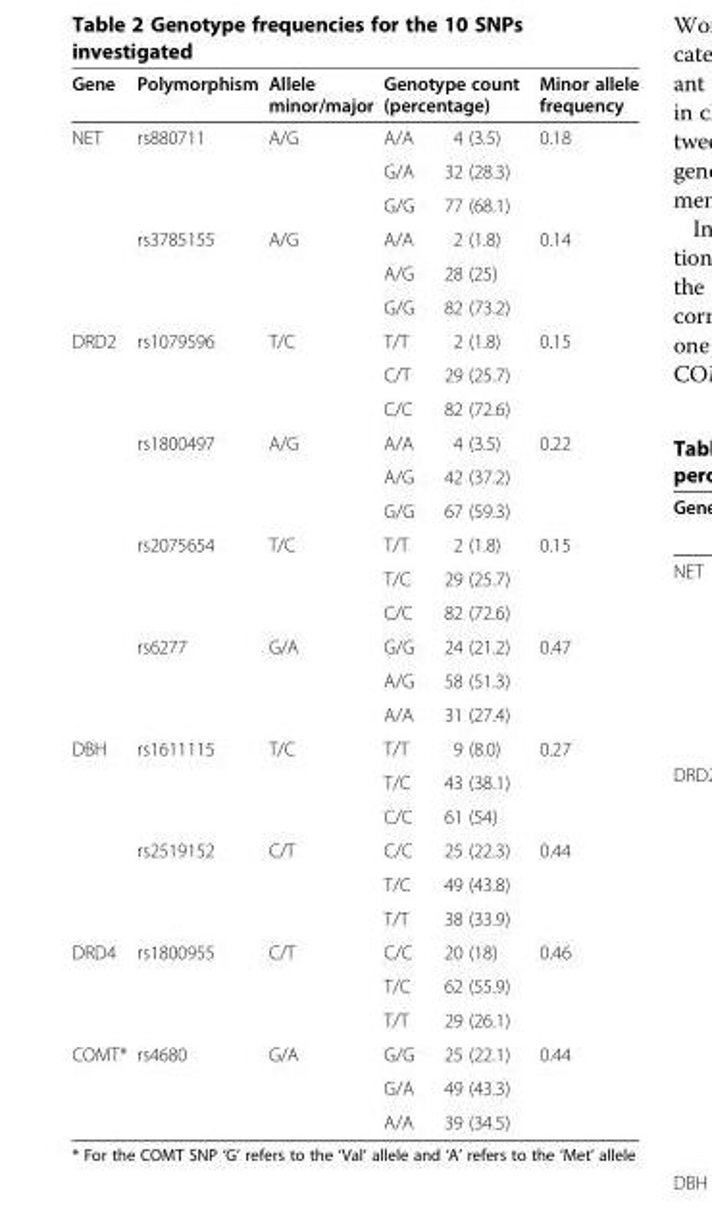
<table><thead><tr><td rowspan="2">Gene NET</td><td rowspan="2">Polymorphism rs880711</td><td rowspan="2">Allele minor/major A/G</td><td colspan="2">Genotype count (percentage)</td><td rowspan="2">Minor allele frequency 0.18</td></tr><tr><td>A/A</td><td>4 (3.5)</td></tr></thead><tbody><tr><td></td><td></td><td></td><td>G/A</td><td>32 (28.3)</td><td></td></tr><tr><td></td><td></td><td></td><td>G/G</td><td>77 (68.1)</td><td></td></tr><tr><td></td><td>rs3785155</td><td>A/G</td><td>A/A</td><td>2 (1.8)</td><td>0.14</td></tr><tr><td></td><td></td><td></td><td>A/G</td><td>28 (25)</td><td></td></tr><tr><td></td><td></td><td></td><td>G/G</td><td>82 (73.2)</td><td></td></tr><tr><td rowspan="12">DRD2</td><td>rs1079596</td><td>T/C</td><td>T/T</td><td>2 (1.8)</td><td>0.15</td></tr><tr><td></td><td></td><td>C/T</td><td>29 (25.7)</td><td></td></tr><tr><td></td><td></td><td>C/C</td><td>82 (72.6)</td><td></td></tr><tr><td>rs1800497</td><td>A/G</td><td>A/A</td><td>4 (3.5)</td><td>0.22</td></tr><tr><td></td><td></td><td>A/G</td><td>42 (37.2)</td><td></td></tr><tr><td></td><td></td><td>G/G</td><td>67 (59.3)</td><td></td></tr><tr><td>rs2075654</td><td>T/C</td><td>T/T</td><td>2 (1.8)</td><td>0.15</td></tr><tr><td></td><td></td><td>T/C</td><td>29 (25.7)</td><td></td></tr><tr><td></td><td></td><td>C/C</td><td>82 (72.6)</td><td></td></tr><tr><td>rs6277</td><td>G/A</td><td>G/G</td><td>24 (21.2)</td><td>0.47</td></tr><tr><td></td><td></td><td>A/G</td><td>58 (51.3)</td><td></td></tr><tr><td></td><td></td><td>A/A</td><td>31 (27.4)</td><td></td></tr><tr><td rowspan="6">DBH</td><td>rs1611115</td><td>T/C</td><td>T/T</td><td>9 (8.0)</td><td>0.27</td></tr><tr><td></td><td></td><td>T/C</td><td>43 (38.1)</td><td></td></tr><tr><td></td><td></td><td>C/C</td><td>61 (54)</td><td></td></tr><tr><td>rs2519152</td><td>C/T</td><td>C/C</td><td>25 (22.3)</td><td>0.44</td></tr><tr><td></td><td></td><td>T/C</td><td>49 (43.8)</td><td></td></tr><tr><td></td><td></td><td>T/T</td><td>38 (33.9)</td><td></td></tr><tr><td rowspan="3">DRD4</td><td>rs1800955</td><td>C/T</td><td>C/C</td><td>20 (18)</td><td>0.46</td></tr><tr><td></td><td></td><td>T/C</td><td>62 (55.9)</td><td></td></tr><tr><td></td><td></td><td>T/T</td><td>29 (26.1)</td><td></td></tr><tr><td rowspan="3">COMT*</td><td>rs4680</td><td>G/A</td><td>G/G</td><td>25 (22.1)</td><td>0.44</td></tr><tr><td></td><td></td><td>G/A</td><td>49 (43.3)</td><td></td></tr><tr><td></td><td></td><td>A/A</td><td>39 (34.5)</td><td></td></tr></tbody></table>